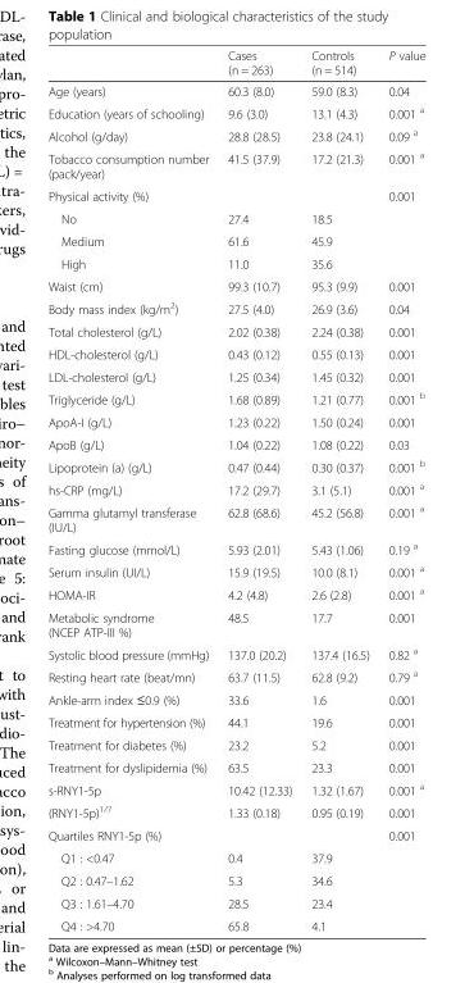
<table><thead><tr><td></td><td>Cases (n = 263)</td><td>Controls (n = 514)</td><td>P value</td></tr></thead><tbody><tr><td>Age (years)</td><td>60.3 (8.0)</td><td>59.0 (8.3)</td><td>0.04</td></tr><tr><td>Education (years of schooling)</td><td>9.6 (3.0)</td><td>13.1 (4.3)</td><td>0.001 <sup>a</sup></td></tr><tr><td>Alcohol (g/day)</td><td>28.8 (28.5)</td><td>23.8 (24.1)</td><td>0.09 <sup>a</sup></td></tr><tr><td>Tobacco consumption number (pack/year)</td><td>41.5 (37.9)</td><td>17.2 (21.3)</td><td>0.001 <sup>a</sup></td></tr><tr><td>Physical activity (%)</td><td></td><td></td><td>0.001</td></tr><tr><td>No</td><td>27.4</td><td>18.5</td><td></td></tr><tr><td>Medium</td><td>61.6</td><td>45.9</td><td></td></tr><tr><td>High</td><td>11.0</td><td>35.6</td><td></td></tr><tr><td>Waist (cm)</td><td>99.3 (10.7)</td><td>95.3 (9.9)</td><td>0.001</td></tr><tr><td>Body mass index (kg/m<sup>2</sup>)</td><td>27.5 (4.0)</td><td>26.9 (3.6)</td><td>0.04</td></tr><tr><td>Total cholesterol (g/L)</td><td>2.02 (0.38)</td><td>2.24 (0.38)</td><td>0.001</td></tr><tr><td>HDL-cholesterol (g/L)</td><td>0.43 (0.12)</td><td>0.55 (0.13)</td><td>0.001</td></tr><tr><td>LDL-cholesterol (g/L)</td><td>1.25 (0.34)</td><td>1.45 (0.32)</td><td>0.001</td></tr><tr><td>Triglyceride (g/L)</td><td>1.68 (0.89)</td><td>1.21 (0.77)</td><td>0.001 <sup>b</sup></td></tr><tr><td>ApoA-I (g/L)</td><td>1.23 (0.22)</td><td>1.50 (0.24)</td><td>0.001</td></tr><tr><td>ApoB (g/L)</td><td>1.04 (0.22)</td><td>1.08 (0.22)</td><td>0.03</td></tr><tr><td>Lipoprotein (a) (g/L)</td><td>0.47 (0.44)</td><td>0.30 (0.37)</td><td>0.001 <sup>b</sup></td></tr><tr><td>hs-CRP (mg/L)</td><td>17.2 (29.7)</td><td>3.1 (5.1)</td><td>0.001 <sup>a</sup></td></tr><tr><td>Gamma glutamyl transferase (IU/L)</td><td>62.8 (68.6)</td><td>45.2 (56.8)</td><td>0.001 <sup>a</sup></td></tr><tr><td>Fasting glucose (mmol/L)</td><td>5.93 (2.01)</td><td>5.43 (1.06)</td><td>0.19 <sup>a</sup></td></tr><tr><td>Serum insulin (UI/L)</td><td>15.9 (19.5)</td><td>10.0 (8.1)</td><td>0.001 <sup>a</sup></td></tr><tr><td>HOMA-IR</td><td>4.2 (4.8)</td><td>2.6 (2.8)</td><td>0.001 <sup>a</sup></td></tr><tr><td>Metabolic syndrome (NCEP ATP-III %)</td><td>48.5</td><td>17.7</td><td>0.001</td></tr><tr><td>Systolic blood pressure (mmHg)</td><td>137.0 (20.2)</td><td>137.4 (16.5)</td><td>0.82 <sup>a</sup></td></tr><tr><td>Resting heart rate (beat/mn)</td><td>63.7 (11.5)</td><td>62.8 (9.2)</td><td>0.79 <sup>a</sup></td></tr><tr><td>Ankle-arm index ≤0.9 (%)</td><td>33.6</td><td>1.6</td><td>0.001</td></tr><tr><td>Treatment for hypertension (%)</td><td>44.1</td><td>19.6</td><td>0.001</td></tr><tr><td>Treatment for diabetes (%)</td><td>23.2</td><td>5.2</td><td>0.001</td></tr><tr><td>Treatment for dyslipidemia (%)</td><td>63.5</td><td>23.3</td><td>0.001</td></tr><tr><td>s-RNY1-5p</td><td>10.42 (12.33)</td><td>1.32 (1.67)</td><td>0.001 <sup>a</sup></td></tr><tr><td>(RNY1-5p)<sup>1/7</sup></td><td>1.33 (0.18)</td><td>0.95 (0.19)</td><td>0.001</td></tr><tr><td>Quartiles RNY1-5p (%)</td><td></td><td></td><td>0.001</td></tr><tr><td>Q1 : &lt;0.47</td><td>0.4</td><td>37.9</td><td></td></tr><tr><td>Q2 : 0.47–1.62</td><td>5.3</td><td>34.6</td><td></td></tr><tr><td>Q3 : 1.61–4.70</td><td>28.5</td><td>23.4</td><td></td></tr><tr><td>Q4 : &gt;4.70</td><td>65.8</td><td>4.1</td><td></td></tr></tbody></table>